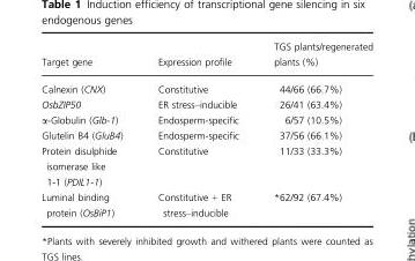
<table><thead><tr><td>Target gene</td><td>Expression profile</td><td>TGS plants/regenerated plants (%)</td></tr></thead><tbody><tr><td>Calnexin (CNX)</td><td>Constitutive</td><td>44/66 (66.7%)</td></tr><tr><td>OsbZIP50</td><td>ER stress–inducible</td><td>26/41 (63.4%)</td></tr><tr><td>α-Globulin (Glb-1)</td><td>Endosperm-specific</td><td>6/57 (10.5%)</td></tr><tr><td>Glutelin B4 (GluB4)</td><td>Endosperm-specific</td><td>37/56 (66.1%)</td></tr><tr><td>Protein disulphide isomerase like 1-1 (PDIL1-1)</td><td>Constitutive</td><td>11/33 (33.3%)</td></tr><tr><td>Luminal binding protein (OsBiP1)</td><td>Constitutive + ER stress–inducible</td><td>*62/92 (67.4%)</td></tr></tbody></table>